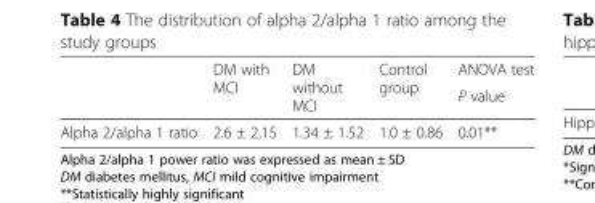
<table><thead><tr><td rowspan="2"></td><td rowspan="2">DM with MCI</td><td rowspan="2">DM without MCI</td><td rowspan="2">Control group</td><td rowspan="2">ANOVA test P value</td></tr><tr></tr></thead><tbody><tr><td>Alpha 2/alpha 1 ratio</td><td>2.6 ± 2.15</td><td>1.34 ± 1.52</td><td>1.0 ± 0.86</td><td>0.01**</td></tr></tbody></table>